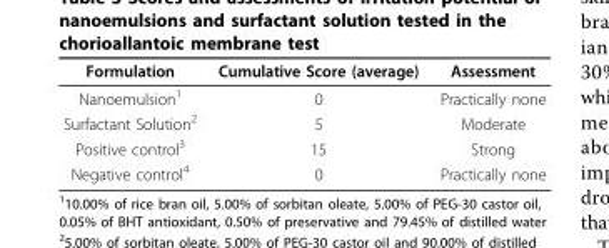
<table><thead><tr><td>Formulation</td><td>Cumulative Score (average)</td><td>Assessment</td></tr></thead><tbody><tr><td>Nanoemulsion<sup>1</sup></td><td>0</td><td>Practically none</td></tr><tr><td>Surfactant Solution<sup>2</sup></td><td>5</td><td>Moderate</td></tr><tr><td>Positive control<sup>3</sup></td><td>15</td><td>Strong</td></tr><tr><td>Negative control<sup>4</sup></td><td>0</td><td>Practically none</td></tr></tbody></table>